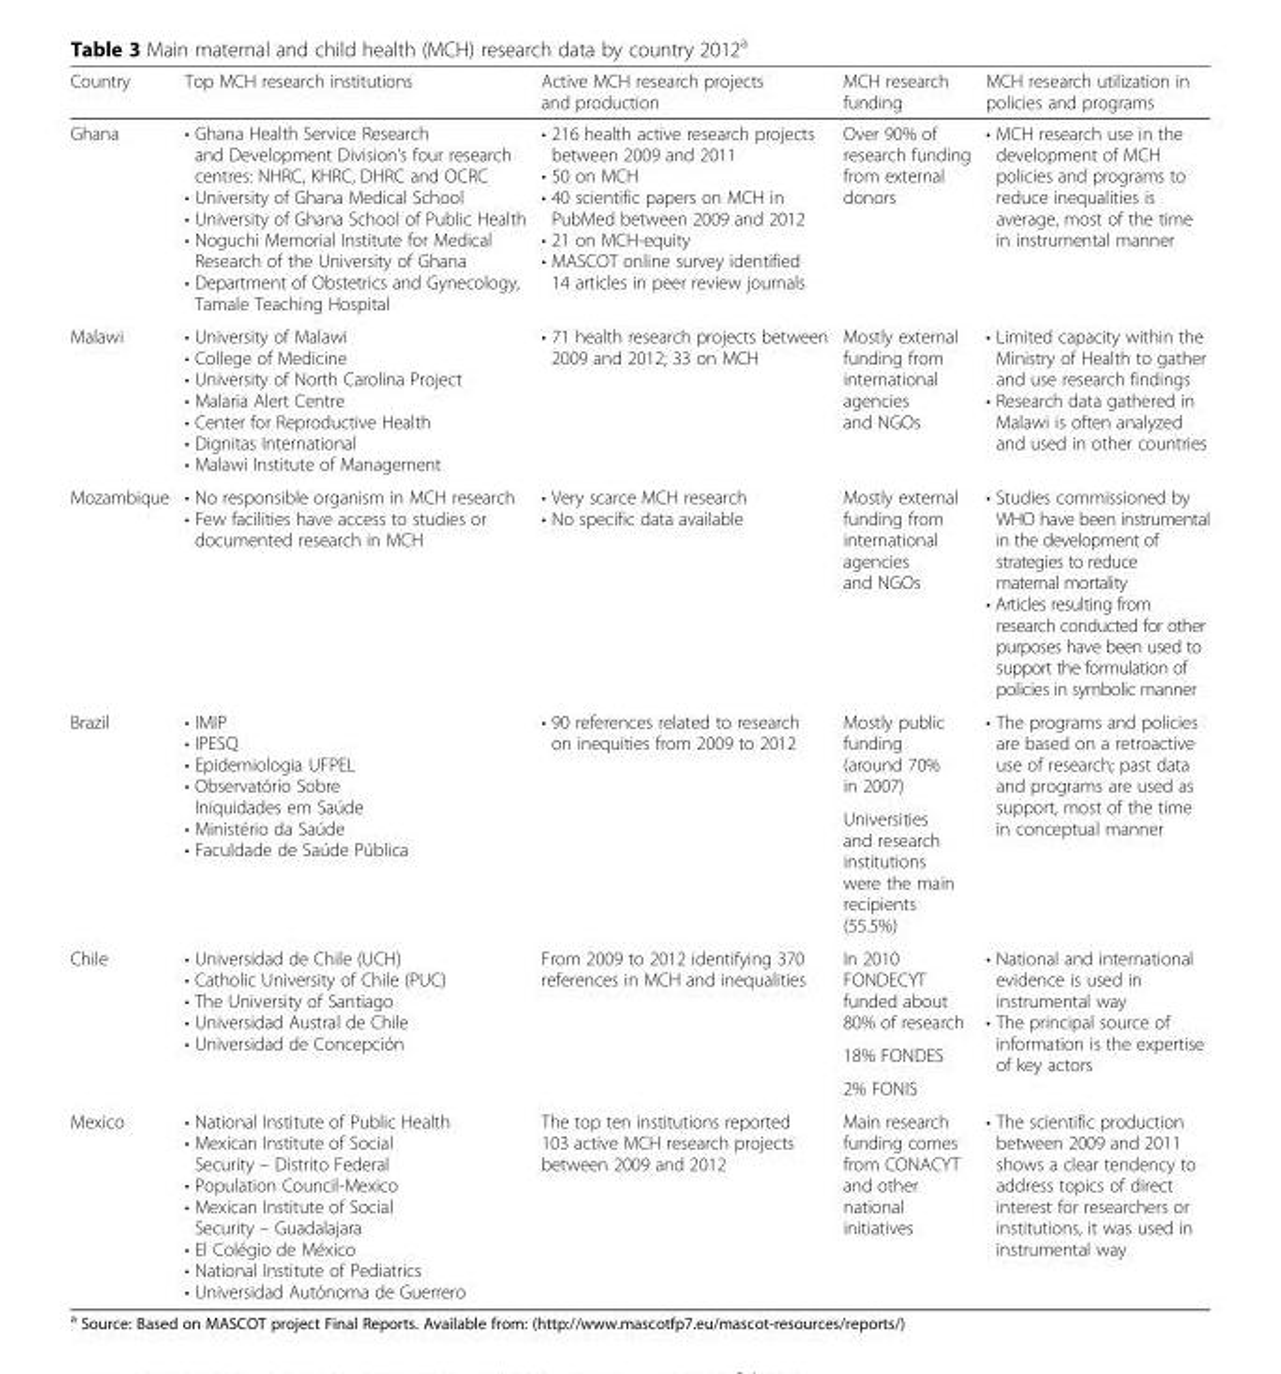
<table><thead><tr><td>Country</td><td>Top MCH research institutions</td><td>Active MCH research projects and production</td><td>MCH research funding</td><td>MCH research utilization in policies and programs</td></tr></thead><tbody><tr><td>Ghana</td><td>• Ghana Health Service Research and Development Division’s four research centres: NHRC, KHRC, DHRC and OCRC • University of Ghana Medical School • University of Ghana School of Public Health • Noguchi Memorial Institute for Medical Research of the University of Ghana • Department of Obstetrics and Gynecology, Tamale Teaching Hospital</td><td>• 216 health active research projects between 2009 and 2011 • 50 on MCH • 40 scientific papers on MCH in PubMed between 2009 and 2012 • 21 on MCH-equity • MASCOT online survey identified 14 articles in peer review journals</td><td>Over 90% of research funding from external donors</td><td>• MCH research use in the development of MCH policies and programs to reduce inequalities is average, most of the time in instrumental manner</td></tr><tr><td>Malawi</td><td>• University of Malawi • College of Medicine • University of North Carolina Project • Malaria Alert Centre • Center for Reproductive Health • Dignitas International • Malawi Institute of Management</td><td>• 71 health research projects between 2009 and 2012; 33 on MCH</td><td>Mostly external funding from international agencies and NGOs</td><td>• Limited capacity within the Ministry of Health to gather and use research findings • Research data gathered in Malawi is often analyzed and used in other countries</td></tr><tr><td>Mozambique</td><td>• No responsible organism in MCH research • Few facilities have access to studies or documented research in MCH</td><td>• Very scarce MCH research • No specific data available</td><td>Mostly external funding from international agencies and NGOs</td><td>• Studies commissioned by WHO have been instrumental in the development of strategies to reduce maternal mortality • Articles resulting from research conducted for other purposes have been used to support the formulation of policies in symbolic manner</td></tr><tr><td rowspan="2">Brazil</td><td rowspan="2">• IMIP • IPESQ • Epidemiologia UFPEL • Observatório Sobre Iniquidades em Saúde • Ministério da Saúde • Faculdade de Saúde Pública</td><td rowspan="2">• 90 references related to research on inequities from 2009 to 2012</td><td>Mostly public funding (around 70% in 2007)</td><td rowspan="2">• The programs and policies are based on a retroactive use of research; past data and programs are used as support, most of the time in conceptual manner</td></tr><tr><td>Universities and research institutions were the main recipients (55.5%)</td></tr><tr><td rowspan="3">Chile</td><td rowspan="3">• Universidad de Chile (UCH) • Catholic University of Chile (PUC) • The University of Santiago • Universidad Austral de Chile • Universidad de Concepción</td><td rowspan="3">From 2009 to 2012 identifying 370 references in MCH and inequalities</td><td>In 2010 FONDECYT funded about 80% of research</td><td rowspan="3">• National and international evidence is used in instrumental way • The principal source of information is the expertise of key actors</td></tr><tr><td>18% FONDES</td></tr><tr><td>2% FONIS</td></tr><tr><td>Mexico</td><td>• National Institute of Public Health • Mexican Institute of Social Security – Distrito Federal • Population Council-Mexico • Mexican Institute of Social Security – Guadalajara • El Colégio de México • National Institute of Pediatrics • Universidad Autónoma de Guerrero</td><td>The top ten institutions reported 103 active MCH research projects between 2009 and 2012</td><td>Main research funding comes from CONACYT and other national initiatives</td><td>• The scientific production between 2009 and 2011 shows a clear tendency to address topics of direct interest for researchers or institutions, it was used in instrumental way</td></tr></tbody></table>